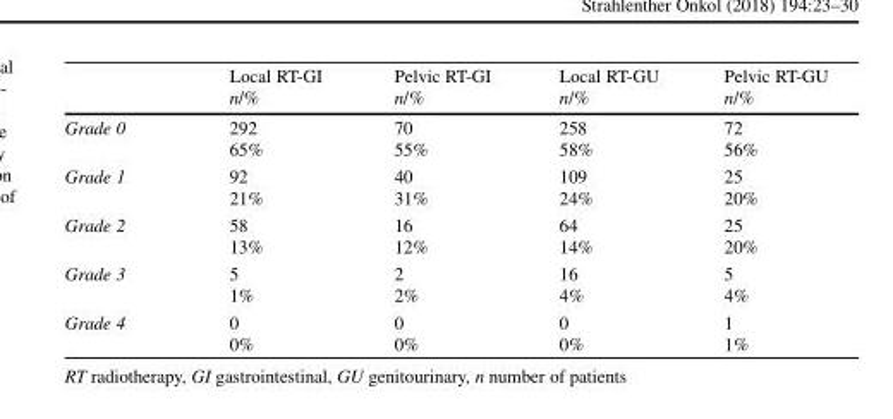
<table><thead><tr><td></td><td>Local RT-GI n/%</td><td>Pelvic RT-GI n/%</td><td>Local RT-GU n/%</td><td>Pelvic RT-GU n/%</td></tr></thead><tbody><tr><td>Grade 0</td><td>292 65%</td><td>70 55%</td><td>258 58%</td><td>72 56%</td></tr><tr><td>Grade 1</td><td>92 21%</td><td>40 31%</td><td>109 24%</td><td>25 20%</td></tr><tr><td>Grade 2</td><td>58 13%</td><td>16 12%</td><td>64 14%</td><td>25 20%</td></tr><tr><td>Grade 3</td><td>5 1%</td><td>2 2%</td><td>16 4%</td><td>5 4%</td></tr><tr><td>Grade 4</td><td>0 0%</td><td>0 0%</td><td>0 0%</td><td>1 1%</td></tr></tbody></table>